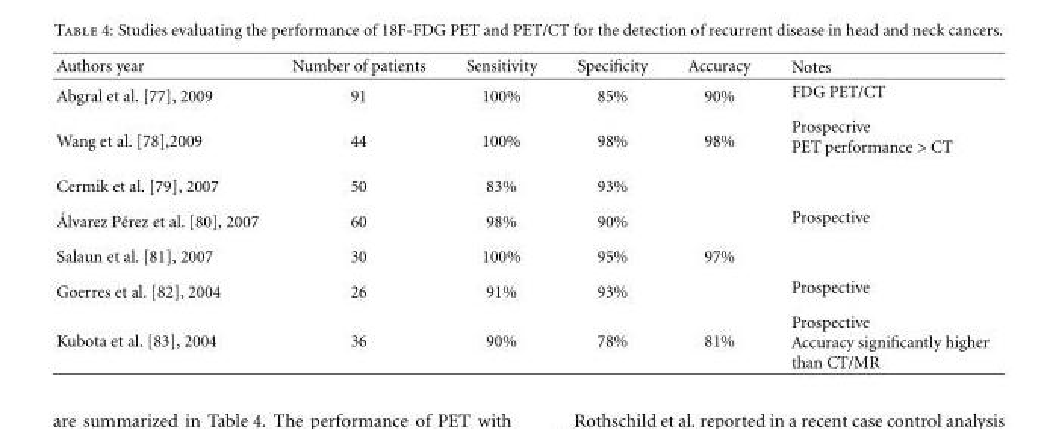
<table><thead><tr><td>Authors year</td><td>Number of patients</td><td>Sensitivity</td><td>Specificity</td><td>Accuracy</td><td>Notes</td></tr></thead><tbody><tr><td>Abgral et al. [77], 2009</td><td>91</td><td>100%</td><td>85%</td><td>90%</td><td>FDG PET/CT</td></tr><tr><td>Wang et al. [78],2009</td><td>44</td><td>100%</td><td>98%</td><td>98%</td><td>Prospecrive PET performance &gt; CT</td></tr><tr><td>Cermik et al. [79], 2007</td><td>50</td><td>83%</td><td>93%</td><td></td><td></td></tr><tr><td>´Alvarez P´erez et al. [80], 2007</td><td>60</td><td>98%</td><td>90%</td><td></td><td>Prospective</td></tr><tr><td>Salaun et al. [81], 2007</td><td>30</td><td>100%</td><td>95%</td><td>97%</td><td></td></tr><tr><td>Goerres et al. [82], 2004</td><td>26</td><td>91%</td><td>93%</td><td></td><td>Prospective</td></tr><tr><td>Kubota et al. [83], 2004</td><td>36</td><td>90%</td><td>78%</td><td>81%</td><td>Prospective Accuracy significantly higher than CT/MR</td></tr></tbody></table>